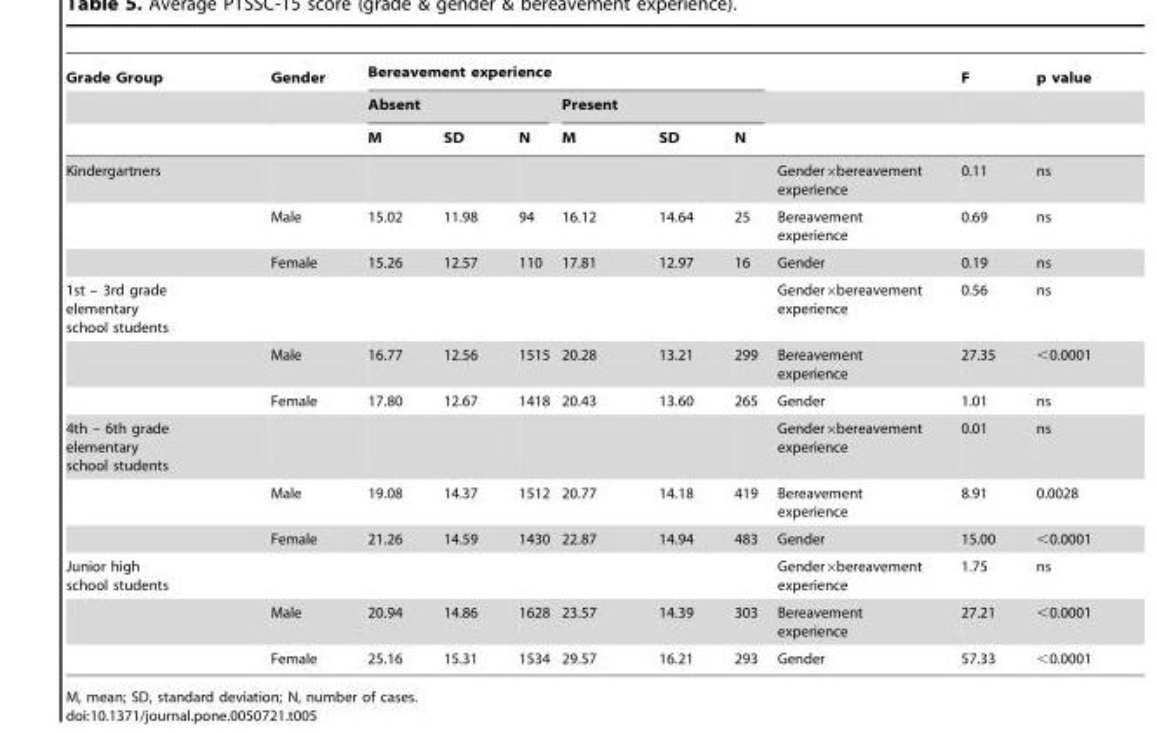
<table><thead><tr><td rowspan="3">Grade Group</td><td rowspan="3">Gender</td><td colspan="6">Bereavement experience</td><td rowspan="3"></td><td rowspan="3">F</td><td rowspan="3">p value</td></tr><tr><td colspan="3">Absent</td><td colspan="3">Present</td></tr><tr><td>M</td><td>SD</td><td>N</td><td>M</td><td>SD</td><td>N</td></tr></thead><tbody><tr><td rowspan="3">Kindergartners</td><td></td><td></td><td></td><td></td><td></td><td></td><td></td><td>Gender×bereavement experience</td><td>0.11</td><td>ns</td></tr><tr><td>Male</td><td>15.02</td><td>11.98</td><td>94</td><td>16.12</td><td>14.64</td><td>25</td><td>Bereavement experience</td><td>0.69</td><td>ns</td></tr><tr><td>Female</td><td>15.26</td><td>12.57</td><td>110</td><td>17.81</td><td>12.97</td><td>16</td><td>Gender</td><td>0.19</td><td>ns</td></tr><tr><td rowspan="3">1st – 3rd grade elementary school students</td><td></td><td></td><td></td><td></td><td></td><td></td><td></td><td>Gender×bereavement experience</td><td>0.56</td><td>ns</td></tr><tr><td>Male</td><td>16.77</td><td>12.56</td><td>1515</td><td>20.28</td><td>13.21</td><td>299</td><td>Bereavement experience</td><td>27.35</td><td>&lt;0.0001</td></tr><tr><td>Female</td><td>17.80</td><td>12.67</td><td>1418</td><td>20.43</td><td>13.60</td><td>265</td><td>Gender</td><td>1.01</td><td>ns</td></tr><tr><td rowspan="3">4th – 6th grade elementary school students</td><td></td><td></td><td></td><td></td><td></td><td></td><td></td><td>Gender×bereavement experience</td><td>0.01</td><td>ns</td></tr><tr><td>Male</td><td>19.08</td><td>14.37</td><td>1512</td><td>20.77</td><td>14.18</td><td>419</td><td>Bereavement experience</td><td>8.91</td><td>0.0028</td></tr><tr><td>Female</td><td>21.26</td><td>14.59</td><td>1430</td><td>22.87</td><td>14.94</td><td>483</td><td>Gender</td><td>15.00</td><td>&lt;0.0001</td></tr><tr><td rowspan="3">Junior high school students</td><td></td><td></td><td></td><td></td><td></td><td></td><td></td><td>Gender×bereavement experience</td><td>1.75</td><td>ns</td></tr><tr><td>Male</td><td>20.94</td><td>14.86</td><td>1628</td><td>23.57</td><td>14.39</td><td>303</td><td>Bereavement experience</td><td>27.21</td><td>&lt;0.0001</td></tr><tr><td>Female</td><td>25.16</td><td>15.31</td><td>1534</td><td>29.57</td><td>16.21</td><td>293</td><td>Gender</td><td>57.33</td><td>&lt;0.0001</td></tr></tbody></table>